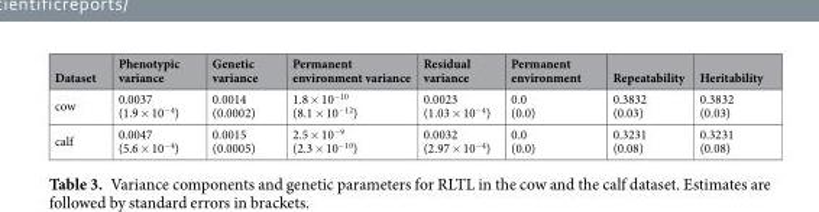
<table><thead><tr><td>Dataset</td><td>Phenotypic variance</td><td>Genetic variance</td><td>Permanent environment variance</td><td>Residual variance</td><td>Permanent environment</td><td>Repeatability</td><td>Heritability</td></tr></thead><tbody><tr><td>cow</td><td>0.0037 (1.9 × 10<sup>−4</sup>)</td><td>0.0014 (0.0002)</td><td>1.8 × 10<sup>−10</sup> (8.1 × 10<sup>−12</sup>)</td><td>0.0023 (1.03 × 10<sup>−4</sup>)</td><td>0.0 (0.0)</td><td>0.3832 (0.03)</td><td>0.3832 (0.03)</td></tr><tr><td>calf</td><td>0.0047 (5.6 × 10<sup>−4</sup>)</td><td>0.0015 (0.0005)</td><td>2.5 × 10<sup>−9</sup> (2.3 × 10<sup>−10</sup>)</td><td>0.0032 (2.97 × 10<sup>−4</sup>)</td><td>0.0 (0.0)</td><td>0.3231 (0.08)</td><td>0.3231 (0.08)</td></tr></tbody></table>